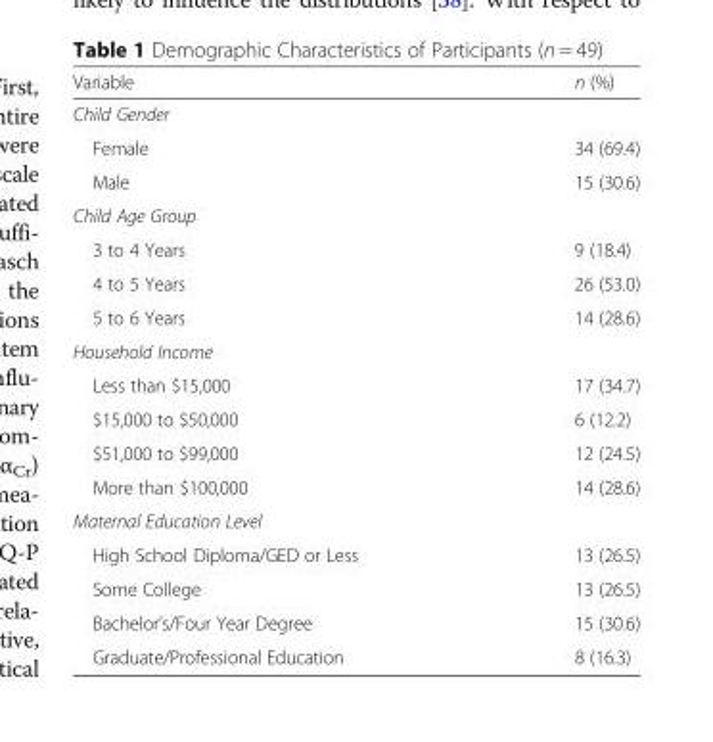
<table><thead><tr><td>Variable</td><td>n (%)</td></tr></thead><tbody><tr><td colspan="2">Child Gender</td></tr><tr><td>Female</td><td>34 (69.4)</td></tr><tr><td>Male</td><td>15 (30.6)</td></tr><tr><td colspan="2">Child Age Group</td></tr><tr><td>3 to 4 Years</td><td>9 (18.4)</td></tr><tr><td>4 to 5 Years</td><td>26 (53.0)</td></tr><tr><td>5 to 6 Years</td><td>14 (28.6)</td></tr><tr><td colspan="2">Household Income</td></tr><tr><td>Less than $15,000</td><td>17 (34.7)</td></tr><tr><td>$15,000 to $50,000</td><td>6 (12.2)</td></tr><tr><td>$51,000 to $99,000</td><td>12 (24.5)</td></tr><tr><td>More than $100,000</td><td>14 (28.6)</td></tr><tr><td colspan="2">Maternal Education Level</td></tr><tr><td>High School Diploma/GED or Less</td><td>13 (26.5)</td></tr><tr><td>Some College</td><td>13 (26.5)</td></tr><tr><td>Bachelor’s/Four Year Degree</td><td>15 (30.6)</td></tr><tr><td>Graduate/Professional Education</td><td>8 (16.3)</td></tr></tbody></table>